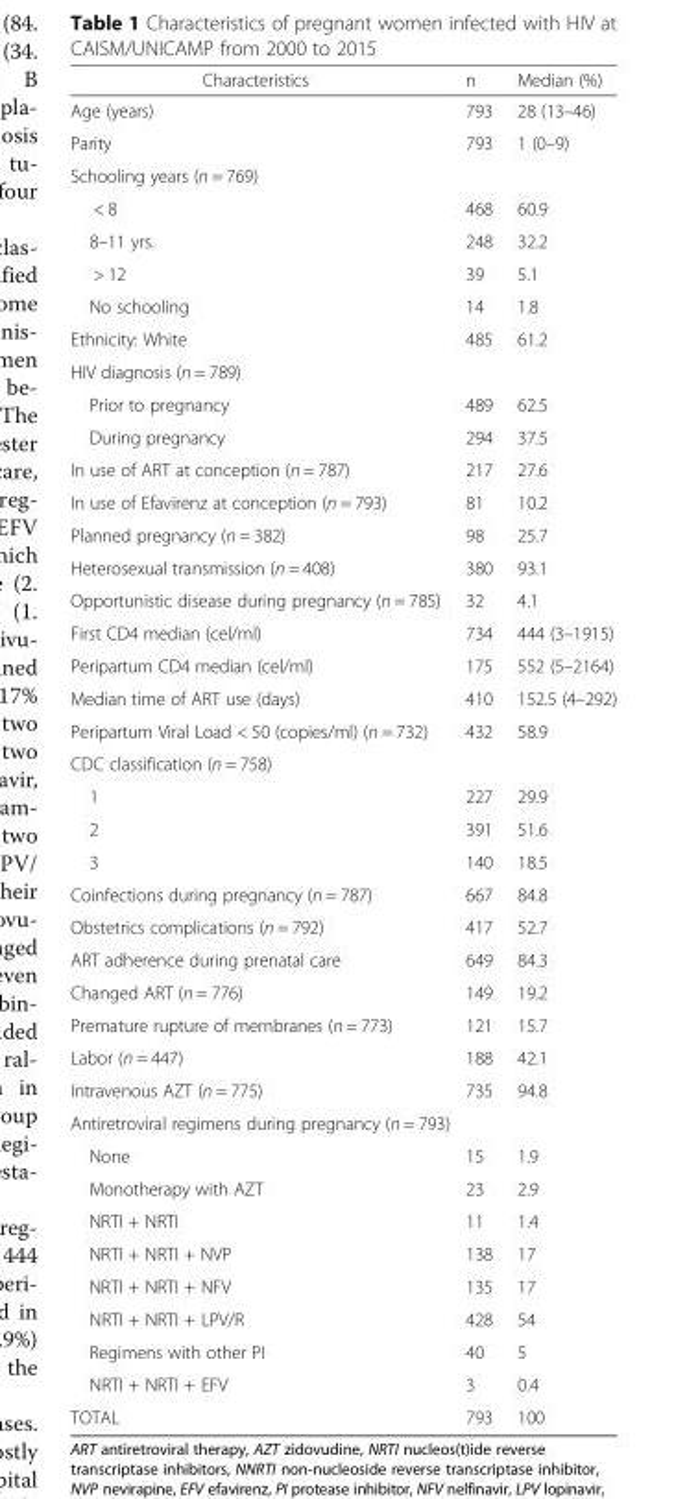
<table><thead><tr><td>Characteristics</td><td>n</td><td>Median (%)</td></tr></thead><tbody><tr><td>Age (years)</td><td>793</td><td>28 (13–46)</td></tr><tr><td>Parity</td><td>793</td><td>1 (0–9)</td></tr><tr><td colspan="3">Schooling years (n = 769)</td></tr><tr><td>&lt; 8</td><td>468</td><td>60.9</td></tr><tr><td>8–11 yrs.</td><td>248</td><td>32.2</td></tr><tr><td>&gt; 12</td><td>39</td><td>5.1</td></tr><tr><td>No schooling</td><td>14</td><td>1.8</td></tr><tr><td>Ethnicity: White</td><td>485</td><td>61.2</td></tr><tr><td colspan="3">HIV diagnosis (n = 789)</td></tr><tr><td>Prior to pregnancy</td><td>489</td><td>62.5</td></tr><tr><td>During pregnancy</td><td>294</td><td>37.5</td></tr><tr><td>In use of ART at conception (n = 787)</td><td>217</td><td>27.6</td></tr><tr><td>In use of Efavirenz at conception (n = 793)</td><td>81</td><td>10.2</td></tr><tr><td>Planned pregnancy (n = 382)</td><td>98</td><td>25.7</td></tr><tr><td>Heterosexual transmission (n = 408)</td><td>380</td><td>93.1</td></tr><tr><td>Opportunistic disease during pregnancy (n = 785)</td><td>32</td><td>4.1</td></tr><tr><td>First CD4 median (cel/ml)</td><td>734</td><td>444 (3–1915)</td></tr><tr><td>Peripartum CD4 median (cel/ml)</td><td>175</td><td>552 (5–2164)</td></tr><tr><td>Median time of ART use (days)</td><td>410</td><td>152.5 (4–292)</td></tr><tr><td>Peripartum Viral Load &lt; 50 (copies/ml) (n = 732)</td><td>432</td><td>58.9</td></tr><tr><td colspan="3">CDC classification (n = 758)</td></tr><tr><td>1</td><td>227</td><td>29.9</td></tr><tr><td>2</td><td>391</td><td>51.6</td></tr><tr><td>3</td><td>140</td><td>18.5</td></tr><tr><td>Coinfections during pregnancy (n = 787)</td><td>667</td><td>84.8</td></tr><tr><td>Obstetrics complications (n = 792)</td><td>417</td><td>52.7</td></tr><tr><td>ART adherence during prenatal care</td><td>649</td><td>84.3</td></tr><tr><td>Changed ART (n = 776)</td><td>149</td><td>19.2</td></tr><tr><td>Premature rupture of membranes (n = 773)</td><td>121</td><td>15.7</td></tr><tr><td>Labor (n = 447)</td><td>188</td><td>42.1</td></tr><tr><td>Intravenous AZT (n = 775)</td><td>735</td><td>94.8</td></tr><tr><td colspan="3">Antiretroviral regimens during pregnancy (n = 793)</td></tr><tr><td>None</td><td>15</td><td>1.9</td></tr><tr><td>Monotherapy with AZT</td><td>23</td><td>2.9</td></tr><tr><td>NRTI + NRTI</td><td>11</td><td>1.4</td></tr><tr><td>NRTI + NRTI + NVP</td><td>138</td><td>17</td></tr><tr><td>NRTI + NRTI + NFV</td><td>135</td><td>17</td></tr><tr><td>NRTI + NRTI + LPV/R</td><td>428</td><td>54</td></tr><tr><td>Regimens with other PI</td><td>40</td><td>5</td></tr><tr><td>NRTI + NRTI + EFV</td><td>3</td><td>0.4</td></tr><tr><td>TOTAL</td><td>793</td><td>100</td></tr></tbody></table>